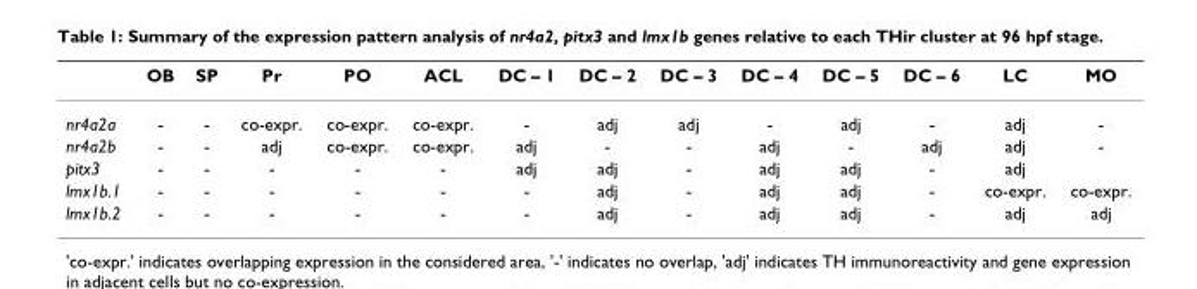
<table><thead><tr><td></td><td>OB</td><td>SP</td><td>Pr</td><td>PO</td><td>ACL</td><td>DC – 1</td><td>DC – 2</td><td>DC – 3</td><td>DC – 4</td><td>DC – 5</td><td>DC – 6</td><td>LC</td><td>MO</td></tr></thead><tbody><tr><td>nr4a2a</td><td>-</td><td>-</td><td>co-expr.</td><td>co-expr.</td><td>co-expr.</td><td>-</td><td>adj</td><td>adj</td><td>-</td><td>adj</td><td>-</td><td>adj</td><td>-</td></tr><tr><td>nr4a2b</td><td>-</td><td>-</td><td>adj</td><td>co-expr.</td><td>co-expr.</td><td>adj</td><td>-</td><td>-</td><td>adj</td><td>-</td><td>adj</td><td>adj</td><td>-</td></tr><tr><td>pitx3</td><td>-</td><td>-</td><td>-</td><td>-</td><td>-</td><td>adj</td><td>adj</td><td>-</td><td>adj</td><td>adj</td><td>-</td><td>adj</td><td></td></tr><tr><td>lmx1b.1</td><td>-</td><td>-</td><td>-</td><td>-</td><td>-</td><td>-</td><td>adj</td><td>-</td><td>adj</td><td>adj</td><td>-</td><td>co-expr.</td><td>co-expr.</td></tr><tr><td>lmx1b.2</td><td>-</td><td>-</td><td>-</td><td>-</td><td>-</td><td>-</td><td>adj</td><td>-</td><td>adj</td><td>adj</td><td>-</td><td>adj</td><td>adj</td></tr></tbody></table>